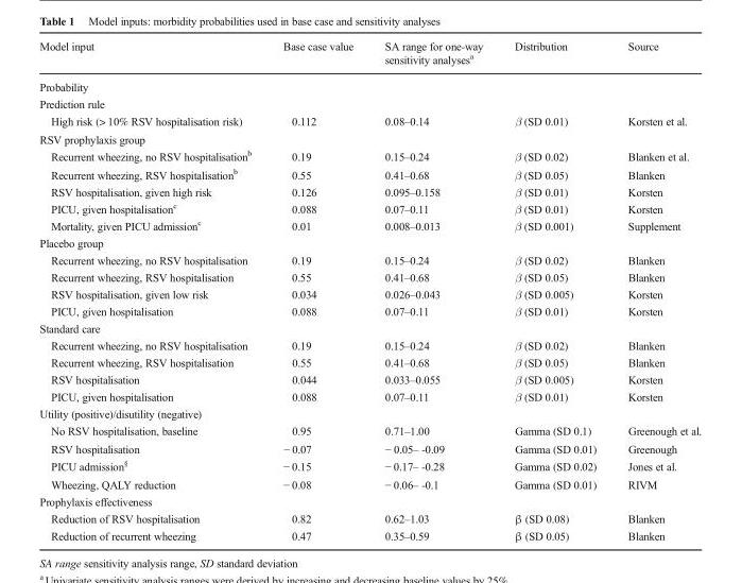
<table><thead><tr><td>Model input</td><td>Base case value</td><td>SA range for one-way sensitivity analyses<sup>a</sup></td><td>Distribution</td><td>Source</td></tr></thead><tbody><tr><td colspan="5">Probability</td></tr><tr><td colspan="5">Prediction rule</td></tr><tr><td>High risk (&gt; 10% RSV hospitalisation risk)</td><td>0.112</td><td>0.08–0.14</td><td>β (SD 0.01)</td><td>Korsten et al.</td></tr><tr><td colspan="5">RSV prophylaxis group</td></tr><tr><td>Recurrent wheezing, no RSV hospitalisation<sup>b</sup></td><td>0.19</td><td>0.15–0.24</td><td>β (SD 0.02)</td><td>Blanken et al.</td></tr><tr><td>Recurrent wheezing, RSV hospitalisation<sup>b</sup></td><td>0.55</td><td>0.41–0.68</td><td>β (SD 0.05)</td><td>Blanken</td></tr><tr><td>RSV hospitalisation, given high risk</td><td>0.126</td><td>0.095–0.158</td><td>β (SD 0.01)</td><td>Korsten</td></tr><tr><td>PICU, given hospitalisation<sup>c</sup></td><td>0.088</td><td>0.07–0.11</td><td>β (SD 0.01)</td><td>Korsten</td></tr><tr><td>Mortality, given PICU admission<sup>c</sup></td><td>0.01</td><td>0.008–0.013</td><td>β (SD 0.001)</td><td>Supplement</td></tr><tr><td colspan="5">Placebo group</td></tr><tr><td>Recurrent wheezing, no RSV hospitalisation</td><td>0.19</td><td>0.15–0.24</td><td>β (SD 0.02)</td><td>Blanken</td></tr><tr><td>Recurrent wheezing, RSV hospitalisation</td><td>0.55</td><td>0.41–0.68</td><td>β (SD 0.05)</td><td>Blanken</td></tr><tr><td>RSV hospitalisation, given low risk</td><td>0.034</td><td>0.026–0.043</td><td>β (SD 0.005)</td><td>Korsten</td></tr><tr><td>PICU, given hospitalisation</td><td>0.088</td><td>0.07–0.11</td><td>β (SD 0.01)</td><td>Korsten</td></tr><tr><td colspan="5">Standard care</td></tr><tr><td>Recurrent wheezing, no RSV hospitalisation</td><td>0.19</td><td>0.15–0.24</td><td>β (SD 0.02)</td><td>Blanken</td></tr><tr><td>Recurrent wheezing, RSV hospitalisation</td><td>0.55</td><td>0.41–0.68</td><td>β (SD 0.05)</td><td>Blanken</td></tr><tr><td>RSV hospitalisation</td><td>0.044</td><td>0.033–0.055</td><td>β (SD 0.005)</td><td>Korsten</td></tr><tr><td>PICU, given hospitalisation</td><td>0.088</td><td>0.07–0.11</td><td>β (SD 0.01)</td><td>Korsten</td></tr><tr><td colspan="5">Utility (positive)/disutility (negative)</td></tr><tr><td>No RSV hospitalisation, baseline</td><td>0.95</td><td>0.71–1.00</td><td>Gamma (SD 0.1)</td><td>Greenough et al.</td></tr><tr><td>RSV hospitalisation</td><td>− 0.07</td><td>− 0.05– -0.09</td><td>Gamma (SD 0.01)</td><td>Greenough</td></tr><tr><td>PICU admission<sup>§</sup></td><td>− 0.15</td><td>− 0.17– -0.28</td><td>Gamma (SD 0.02)</td><td>Jones et al.</td></tr><tr><td>Wheezing, QALY reduction</td><td>− 0.08</td><td>− 0.06– -0.1</td><td>Gamma (SD 0.01)</td><td>RIVM</td></tr><tr><td colspan="5">Prophylaxis effectiveness</td></tr><tr><td>Reduction of RSV hospitalisation</td><td>0.82</td><td>0.62–1.03</td><td>β (SD 0.08)</td><td>Blanken</td></tr><tr><td>Reduction of recurrent wheezing</td><td>0.47</td><td>0.35–0.59</td><td>β (SD 0.05)</td><td>Blanken</td></tr></tbody></table>